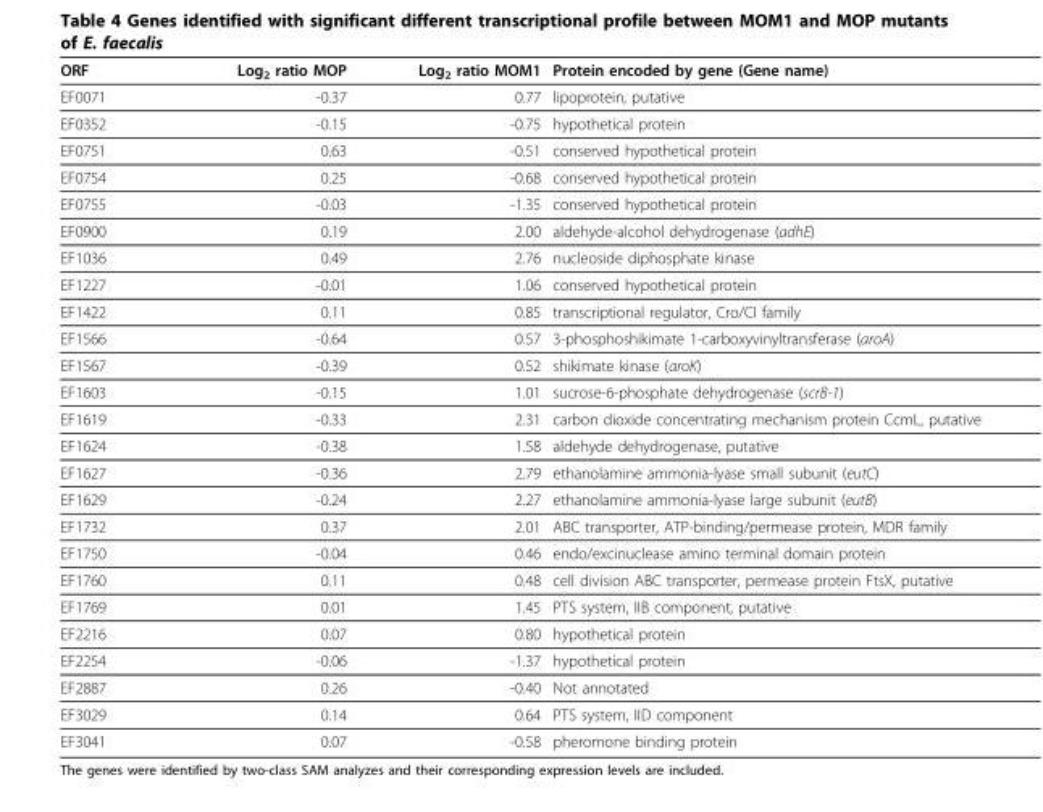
<table><thead><tr><td>ORF</td><td>Log<sub>2</sub> ratio MOP</td><td>Log<sub>2</sub> ratio MOM1</td><td>Protein encoded by gene (Gene name)</td></tr></thead><tbody><tr><td>EF0071</td><td>-0.37</td><td>0.77</td><td>lipoprotein, putative</td></tr><tr><td>EF0352</td><td>-0.15</td><td>-0.75</td><td>hypothetical protein</td></tr><tr><td>EF0751</td><td>0.63</td><td>-0.51</td><td>conserved hypothetical protein</td></tr><tr><td>EF0754</td><td>0.25</td><td>-0.68</td><td>conserved hypothetical protein</td></tr><tr><td>EF0755</td><td>-0.03</td><td>-1.35</td><td>conserved hypothetical protein</td></tr><tr><td>EF0900</td><td>0.19</td><td>2.00</td><td>aldehyde-alcohol dehydrogenase (adhE)</td></tr><tr><td>EF1036</td><td>0.49</td><td>2.76</td><td>nucleoside diphosphate kinase</td></tr><tr><td>EF1227</td><td>-0.01</td><td>1.06</td><td>conserved hypothetical protein</td></tr><tr><td>EF1422</td><td>0.11</td><td>0.85</td><td>transcriptional regulator, Cro/CI family</td></tr><tr><td>EF1566</td><td>-0.64</td><td>0.57</td><td>3-phosphoshikimate 1-carboxyvinyltransferase (aroA)</td></tr><tr><td>EF1567</td><td>-0.39</td><td>0.52</td><td>shikimate kinase (aroK)</td></tr><tr><td>EF1603</td><td>-0.15</td><td>1.01</td><td>sucrose-6-phosphate dehydrogenase (scrB-1)</td></tr><tr><td>EF1619</td><td>-0.33</td><td>2.31</td><td>carbon dioxide concentrating mechanism protein CcmL, putative</td></tr><tr><td>EF1624</td><td>-0.38</td><td>1.58</td><td>aldehyde dehydrogenase, putative</td></tr><tr><td>EF1627</td><td>-0.36</td><td>2.79</td><td>ethanolamine ammonia-lyase small subunit (eutC)</td></tr><tr><td>EF1629</td><td>-0.24</td><td>2.27</td><td>ethanolamine ammonia-lyase large subunit (eutB)</td></tr><tr><td>EF1732</td><td>0.37</td><td>2.01</td><td>ABC transporter, ATP-binding/permease protein, MDR family</td></tr><tr><td>EF1750</td><td>-0.04</td><td>0.46</td><td>endo/excinuclease amino terminal domain protein</td></tr><tr><td>EF1760</td><td>0.11</td><td>0.48</td><td>cell division ABC transporter, permease protein FtsX, putative</td></tr><tr><td>EF1769</td><td>0.01</td><td>1.45</td><td>PTS system, IIB component, putative</td></tr><tr><td>EF2216</td><td>0.07</td><td>0.80</td><td>hypothetical protein</td></tr><tr><td>EF2254</td><td>-0.06</td><td>-1.37</td><td>hypothetical protein</td></tr><tr><td>EF2887</td><td>0.26</td><td>-0.40</td><td>Not annotated</td></tr><tr><td>EF3029</td><td>0.14</td><td>0.64</td><td>PTS system, IID component</td></tr><tr><td>EF3041</td><td>0.07</td><td>-0.58</td><td>pheromone binding protein</td></tr></tbody></table>